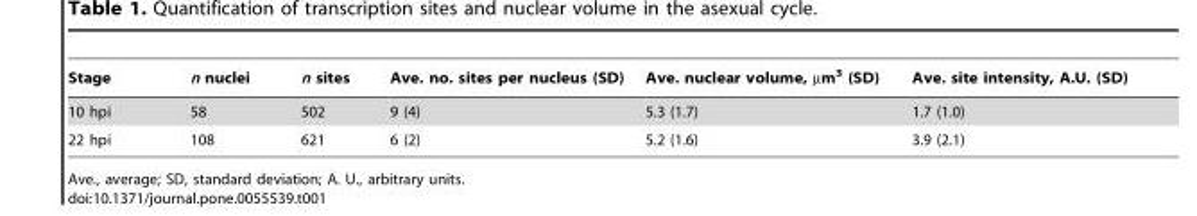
<table><thead><tr><td>Stage</td><td>n nuclei</td><td>n sites</td><td>Ave. no. sites per nucleus (SD)</td><td>Ave. nuclear volume, µm<sup>3</sup> (SD)</td><td>Ave. site intensity, A.U. (SD)</td></tr></thead><tbody><tr><td>10 hpi</td><td>58</td><td>502</td><td>9 (4)</td><td>5.3 (1.7)</td><td>1.7 (1.0)</td></tr><tr><td>22 hpi</td><td>108</td><td>621</td><td>6 (2)</td><td>5.2 (1.6)</td><td>3.9 (2.1)</td></tr></tbody></table>